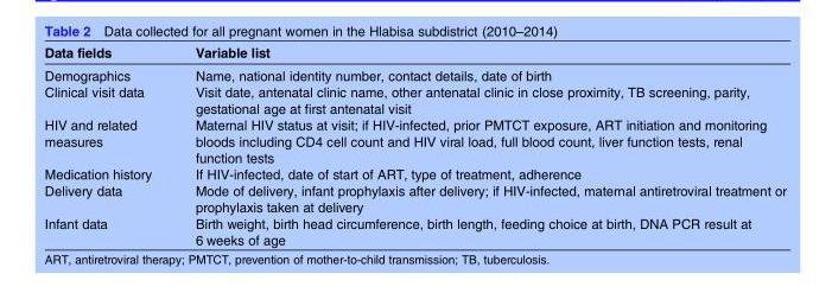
<table><thead><tr><td>Data fields</td><td>Variable list</td></tr></thead><tbody><tr><td>Demographics</td><td>Name, national identity number, contact details, date of birth</td></tr><tr><td>Clinical visit data</td><td>Visit date, antenatal clinic name, other antenatal clinic in close proximity, TB screening, parity, gestational age at first antenatal visit</td></tr><tr><td>HIV and related measures</td><td>Maternal HIV status at visit; if HIV-infected, prior PMTCT exposure, ART initiation and monitoring bloods including CD4 cell count and HIV viral load, full blood count, liver function tests, renal function tests</td></tr><tr><td>Medication history</td><td>If HIV-infected, date of start of ART, type of treatment, adherence</td></tr><tr><td>Delivery data</td><td>Mode of delivery, infant prophylaxis after delivery; if HIV-infected, maternal antiretroviral treatment or prophylaxis taken at delivery</td></tr><tr><td>Infant data</td><td>Birth weight, birth head circumference, birth length, feeding choice at birth, DNA PCR result at 6 weeks of age</td></tr></tbody></table>